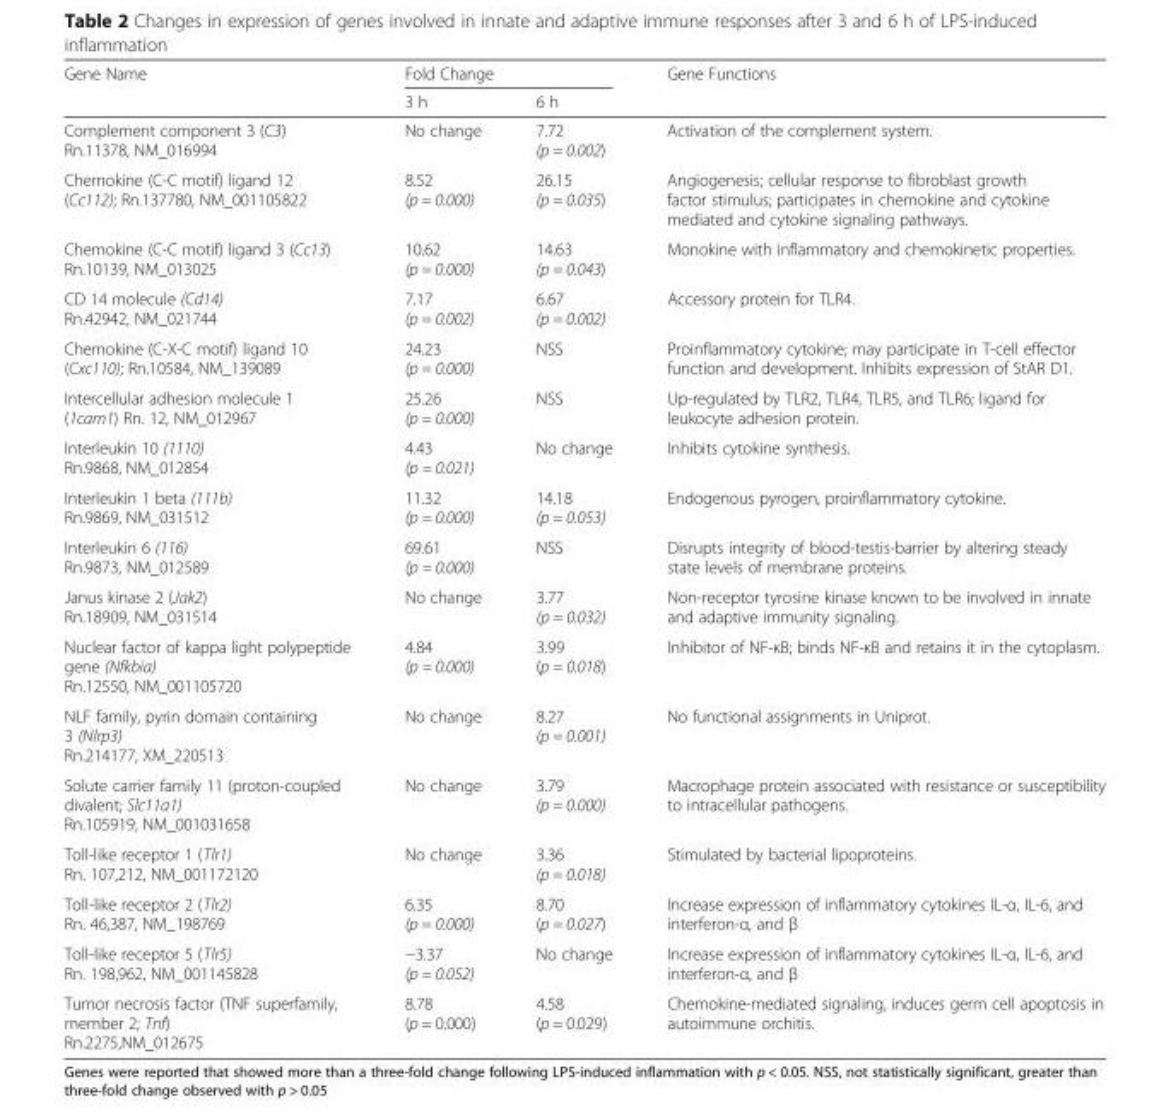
<table><thead><tr><td rowspan="2">Gene Name</td><td colspan="2">Fold Change</td><td rowspan="2">Gene Functions</td></tr><tr><td>3 h</td><td>6 h</td></tr></thead><tbody><tr><td>Complement component 3 (C3) Rn.11378, NM_016994</td><td>No change</td><td>7.72 (p = 0.002)</td><td>Activation of the complement system.</td></tr><tr><td>Chemokine (C-C motif) ligand 12 (Cc112); Rn.137780, NM_001105822</td><td>8.52 (p = 0.000)</td><td>26.15 (p = 0.035)</td><td>Angiogenesis; cellular response to fibroblast growth factor stimulus; participates in chemokine and cytokine mediated and cytokine signaling pathways.</td></tr><tr><td>Chemokine (C-C motif) ligand 3 (Cc13) Rn.10139, NM_013025</td><td>10.62 (p = 0.000)</td><td>14.63 (p = 0.043)</td><td>Monokine with inflammatory and chemokinetic properties.</td></tr><tr><td>CD 14 molecule (Cd14) Rn.42942, NM_021744</td><td>7.17 (p = 0.002)</td><td>6.67 (p = 0.002)</td><td>Accessory protein for TLR4.</td></tr><tr><td>Chemokine (C-X-C motif) ligand 10 (Cxc110); Rn.10584, NM_139089</td><td>24.23 (p = 0.000)</td><td>NSS</td><td>Proinflammatory cytokine; may participate in T-cell effector function and development. Inhibits expression of StAR D1.</td></tr><tr><td>Intercellular adhesion molecule 1 (1cam1) Rn. 12, NM_012967</td><td>25.26 (p = 0.000)</td><td>NSS</td><td>Up-regulated by TLR2, TLR4, TLR5, and TLR6; ligand for leukocyte adhesion protein.</td></tr><tr><td>Interleukin 10 (1110) Rn.9868, NM_012854</td><td>4.43 (p = 0.021)</td><td>No change</td><td>Inhibits cytokine synthesis.</td></tr><tr><td>Interleukin 1 beta (111b) Rn.9869, NM_031512</td><td>11.32 (p = 0.000)</td><td>14.18 (p = 0.053)</td><td>Endogenous pyrogen, proinflammatory cytokine.</td></tr><tr><td>Interleukin 6 (116) Rn.9873, NM_012589</td><td>69.61 (p = 0.000)</td><td>NSS</td><td>Disrupts integrity of blood-testis-barrier by altering steady state levels of membrane proteins.</td></tr><tr><td>Janus kinase 2 (Jak2) Rn.18909, NM_031514</td><td>No change</td><td>3.77 (p = 0.032)</td><td>Non-receptor tyrosine kinase known to be involved in innate and adaptive immunity signaling.</td></tr><tr><td>Nuclear factor of kappa light polypeptide gene (Nfkbia) Rn.12550, NM_001105720</td><td>4.84 (p = 0.000)</td><td>3.99 (p = 0.018)</td><td>Inhibitor of NF-ĸB; binds NF-ĸB and retains it in the cytoplasm.</td></tr><tr><td>NLF family, pyrin domain containing 3 (Nlrp3) Rn.214177, XM_220513</td><td>No change</td><td>8.27 (p = 0.001)</td><td>No functional assignments in Uniprot.</td></tr><tr><td>Solute carrier family 11 (proton-coupled divalent; Slc11a1) Rn.105919, NM_001031658</td><td>No change</td><td>3.79 (p = 0.000)</td><td>Macrophage protein associated with resistance or susceptibility to intracellular pathogens.</td></tr><tr><td>Toll-like receptor 1 (Tlr1) Rn. 107,212, NM_001172120</td><td>No change</td><td>3.36 (p = 0.018)</td><td>Stimulated by bacterial lipoproteins.</td></tr><tr><td>Toll-like receptor 2 (Tlr2) Rn. 46,387, NM_198769</td><td>6.35 (p = 0.000)</td><td>8.70 (p = 0.027)</td><td>Increase expression of inflammatory cytokines IL-α, IL-6, and interferon-α, and β</td></tr><tr><td>Toll-like receptor 5 (Tlr5) Rn. 198,962, NM_001145828</td><td>−3.37 (p = 0.052)</td><td>No change</td><td>Increase expression of inflammatory cytokines IL-α, IL-6, and interferon-α, and β</td></tr><tr><td>Tumor necrosis factor (TNF superfamily, member 2; Tnf) Rn.2275,NM_012675</td><td>8.78 (p = 0.000)</td><td>4.58 (p = 0.029)</td><td>Chemokine-mediated signaling, induces germ cell apoptosis in autoimmune orchitis.</td></tr></tbody></table>